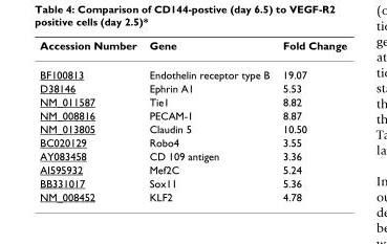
<table><thead><tr><td>Accession Number</td><td>Gene</td><td>Fold Change</td></tr></thead><tbody><tr><td>BF100813</td><td>Endothelin receptor type B</td><td>19.07</td></tr><tr><td>D38146</td><td>Ephrin A1</td><td>5.53</td></tr><tr><td>NM_011587</td><td>Tie1</td><td>8.82</td></tr><tr><td>NM_008816</td><td>PECAM-1</td><td>8.87</td></tr><tr><td>NM_013805</td><td>Claudin 5</td><td>10.50</td></tr><tr><td>BC020129</td><td>Robo4</td><td>3.55</td></tr><tr><td>AY083458</td><td>CD 109 antigen</td><td>3.36</td></tr><tr><td>AI595932</td><td>Mef2C</td><td>5.24</td></tr><tr><td>BB331017</td><td>Sox11</td><td>5.36</td></tr><tr><td>NM_008452</td><td>KLF2</td><td>4.78</td></tr></tbody></table>